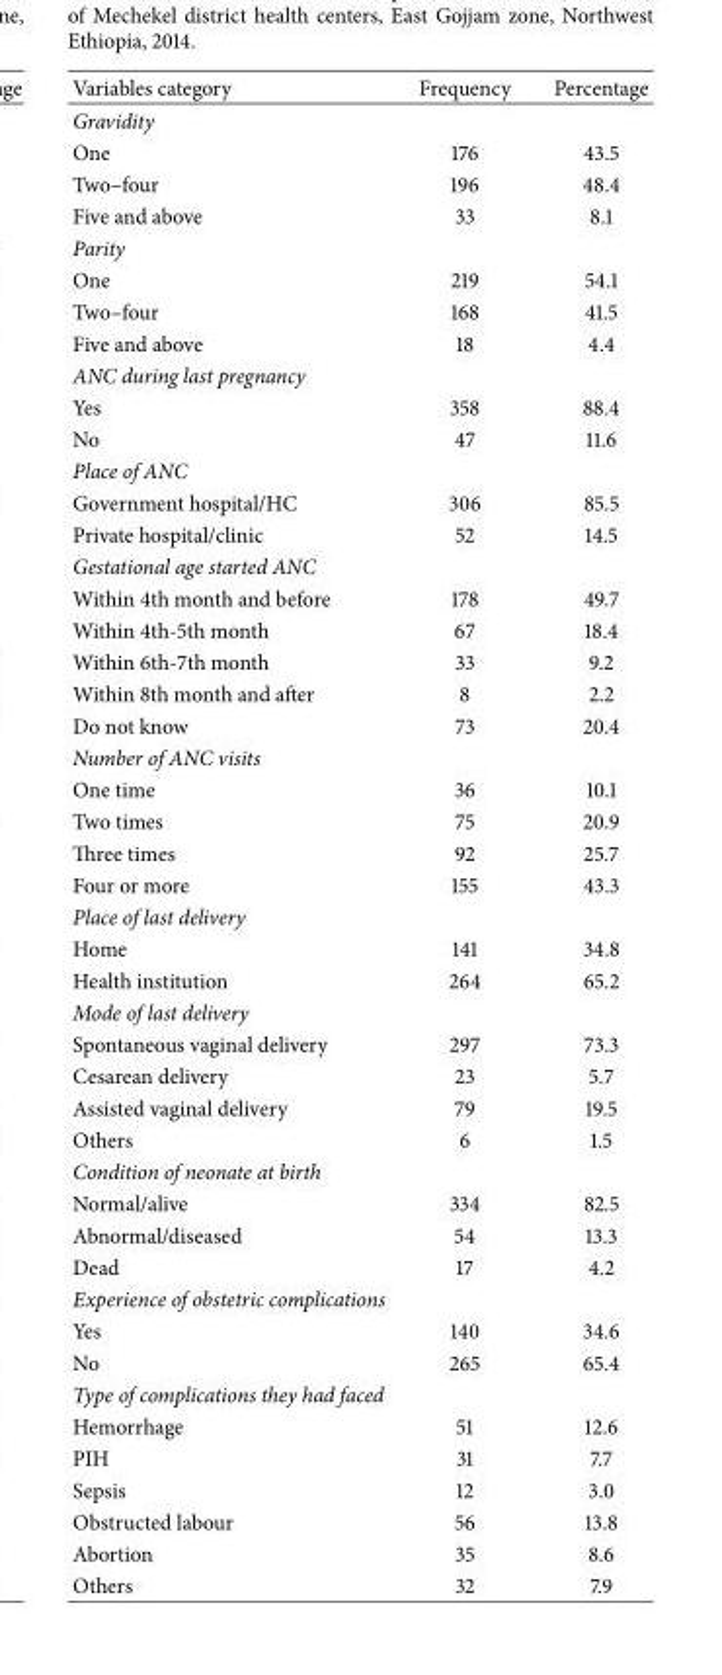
<table><thead><tr><td>Variables category</td><td>Frequency</td><td>Percentage</td></tr></thead><tbody><tr><td colspan="3">Gravidity</td></tr><tr><td>One</td><td>176</td><td>43.5</td></tr><tr><td>Two–four</td><td>196</td><td>48.4</td></tr><tr><td>Five and above</td><td>33</td><td>8.1</td></tr><tr><td colspan="3">Parity</td></tr><tr><td>One</td><td>219</td><td>54.1</td></tr><tr><td>Two–four</td><td>168</td><td>41.5</td></tr><tr><td>Five and above</td><td>18</td><td>4.4</td></tr><tr><td colspan="3">ANC during last pregnancy</td></tr><tr><td>Yes</td><td>358</td><td>88.4</td></tr><tr><td>No</td><td>47</td><td>11.6</td></tr><tr><td colspan="3">Place of ANC</td></tr><tr><td>Government hospital/HC</td><td>306</td><td>85.5</td></tr><tr><td>Private hospital/clinic</td><td>52</td><td>14.5</td></tr><tr><td colspan="3">Gestational age started ANC</td></tr><tr><td>Within 4th month and before</td><td>178</td><td>49.7</td></tr><tr><td>Within 4th-5th month</td><td>67</td><td>18.4</td></tr><tr><td>Within 6th-7th month</td><td>33</td><td>9.2</td></tr><tr><td>Within 8th month and after</td><td>8</td><td>2.2</td></tr><tr><td>Do not know</td><td>73</td><td>20.4</td></tr><tr><td colspan="3">Number of ANC visits</td></tr><tr><td>One time</td><td>36</td><td>10.1</td></tr><tr><td>Two times</td><td>75</td><td>20.9</td></tr><tr><td>Three times</td><td>92</td><td>25.7</td></tr><tr><td>Four or more</td><td>155</td><td>43.3</td></tr><tr><td colspan="3">Place of last delivery</td></tr><tr><td>Home</td><td>141</td><td>34.8</td></tr><tr><td>Health institution</td><td>264</td><td>65.2</td></tr><tr><td colspan="3">Mode of last delivery</td></tr><tr><td>Spontaneous vaginal delivery</td><td>297</td><td>73.3</td></tr><tr><td>Cesarean delivery</td><td>23</td><td>5.7</td></tr><tr><td>Assisted vaginal delivery</td><td>79</td><td>19.5</td></tr><tr><td>Others</td><td>6</td><td>1.5</td></tr><tr><td colspan="3">Condition of neonate at birth</td></tr><tr><td>Normal/alive</td><td>334</td><td>82.5</td></tr><tr><td>Abnormal/diseased</td><td>54</td><td>13.3</td></tr><tr><td>Dead</td><td>17</td><td>4.2</td></tr><tr><td colspan="3">Experience of obstetric complications</td></tr><tr><td>Yes</td><td>140</td><td>34.6</td></tr><tr><td>No</td><td>265</td><td>65.4</td></tr><tr><td colspan="3">Type of complications they had faced</td></tr><tr><td>Hemorrhage</td><td>51</td><td>12.6</td></tr><tr><td>PIH</td><td>31</td><td>7.7</td></tr><tr><td>Sepsis</td><td>12</td><td>3.0</td></tr><tr><td>Obstructed labour</td><td>56</td><td>13.8</td></tr><tr><td>Abortion</td><td>35</td><td>8.6</td></tr><tr><td>Others</td><td>32</td><td>7.9</td></tr></tbody></table>